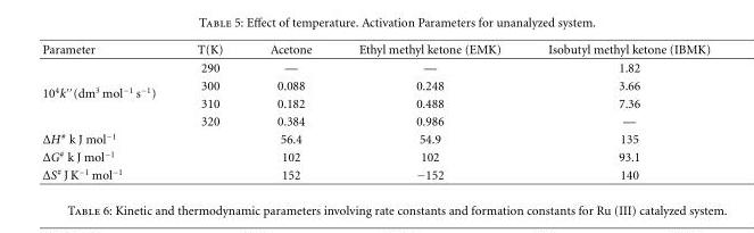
<table><thead><tr><td>Parameter</td><td>T(K)</td><td>Acetone</td><td>Ethyl methyl ketone (EMK)</td><td>Isobutyl methyl ketone (IBMK)</td></tr></thead><tbody><tr><td rowspan="4">10<sup>4</sup>k′′(dm<sup>3</sup> mol<sup>−1</sup> s<sup>−1</sup>)</td><td>290</td><td>—</td><td>—</td><td>1.82</td></tr><tr><td>300</td><td>0.088</td><td>0.248</td><td>3.66</td></tr><tr><td>310</td><td>0.182</td><td>0.488</td><td>7.36</td></tr><tr><td>320</td><td>0.384</td><td>0.986</td><td>—</td></tr><tr><td>ΔH<sup>#</sup> k J mol<sup>−1</sup></td><td></td><td>56.4</td><td>54.9</td><td>135</td></tr><tr><td>ΔG<sup>#</sup> k J mol<sup>−1</sup></td><td></td><td>102</td><td>102</td><td>93.1</td></tr><tr><td>ΔS<sup>#</sup> J K<sup>−1</sup> mol<sup>−1</sup></td><td></td><td>152</td><td>−152</td><td>140</td></tr></tbody></table>